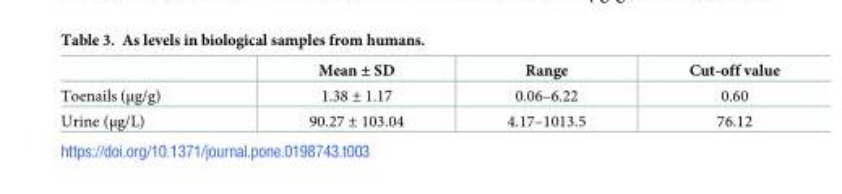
<table><thead><tr><td></td><td>Mean ± SD</td><td>Range</td><td>Cut-off value</td></tr></thead><tbody><tr><td>Toenails (μg/g)</td><td>1.38 ± 1.17</td><td>0.06–6.22</td><td>0.60</td></tr><tr><td>Urine (μg/L)</td><td>90.27 ± 103.04</td><td>4.17–1013.5</td><td>76.12</td></tr></tbody></table>